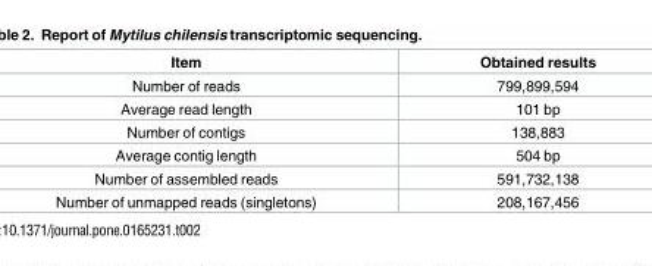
<table><thead><tr><td>Item</td><td>Obtained results</td></tr></thead><tbody><tr><td>Number of reads</td><td>799,899,594</td></tr><tr><td>Average read length</td><td>101 bp</td></tr><tr><td>Number of contigs</td><td>138,883</td></tr><tr><td>Average contig length</td><td>504 bp</td></tr><tr><td>Number of assembled reads</td><td>591,732,138</td></tr><tr><td>Number of unmapped reads (singletons)</td><td>208,167,456</td></tr></tbody></table>